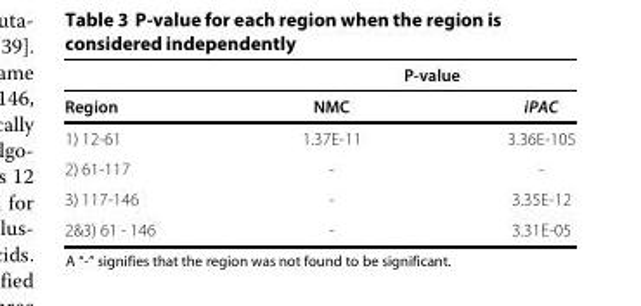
<table><thead><tr><td rowspan="2">Region</td><td colspan="2">P-value</td></tr><tr><td>NMC</td><td>iPAC</td></tr></thead><tbody><tr><td>1) 12-61</td><td>1.37E-11</td><td>3.36E-105</td></tr><tr><td>2) 61-117</td><td>-</td><td>-</td></tr><tr><td>3) 117-146</td><td>-</td><td>3.35E-12</td></tr><tr><td>2&amp;3) 61 - 146</td><td>-</td><td>3.31E-05</td></tr></tbody></table>